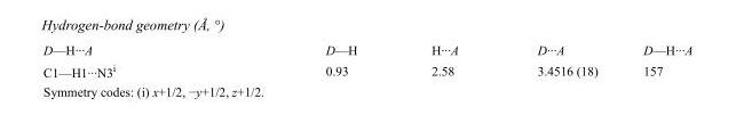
<table><tbody><tr><td>D—H···A</td><td>D—H</td><td>H···A</td><td>D···A</td><td>D—H···A</td></tr><tr><td>C1—H1···N3<sup>i</sup></td><td>0.93</td><td>2.58</td><td>3.4516 (18)</td><td>157</td></tr></tbody></table>